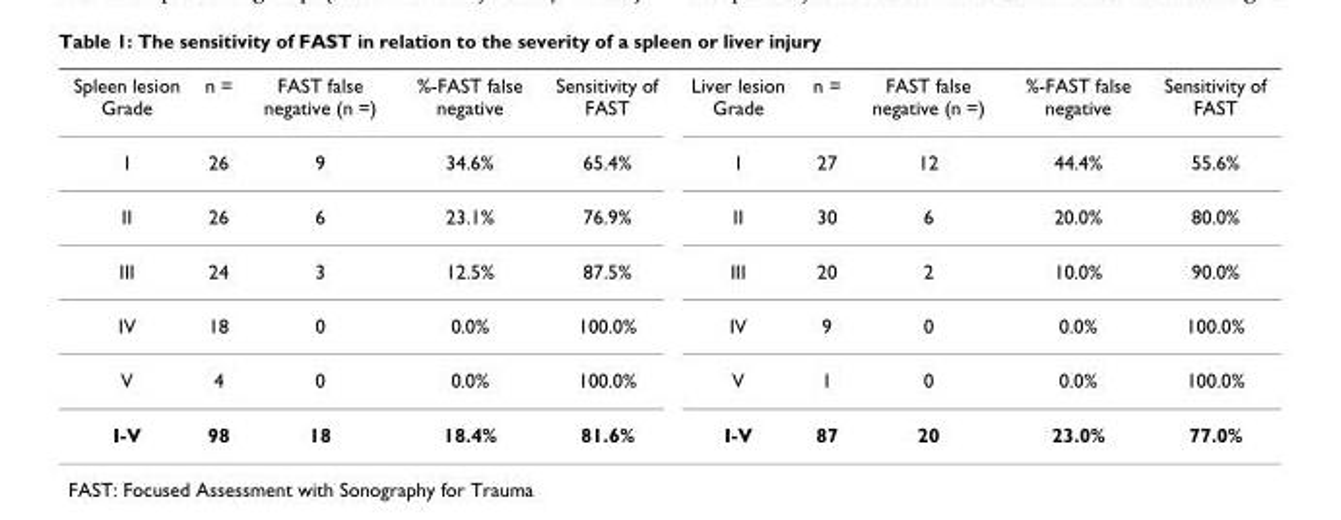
<table><tbody><tr><td>Spleen lesion Grade</td><td>n =</td><td>FAST false negative (n =)</td><td>%-FAST false negative</td><td>Sensitivity of FAST</td><td>Liver lesion Grade</td><td>n =</td><td>FAST false negative (n =)</td><td>%-FAST false negative</td><td>Sensitivity of FAST</td></tr><tr><td>I</td><td>26</td><td>9</td><td>34.6%</td><td>65.4%</td><td>I</td><td>27</td><td>12</td><td>44.4%</td><td>55.6%</td></tr><tr><td>II</td><td>26</td><td>6</td><td>23.1%</td><td>76.9%</td><td>II</td><td>30</td><td>6</td><td>20.0%</td><td>80.0%</td></tr><tr><td>III</td><td>24</td><td>3</td><td>12.5%</td><td>87.5%</td><td>III</td><td>20</td><td>2</td><td>10.0%</td><td>90.0%</td></tr><tr><td>IV</td><td>18</td><td>0</td><td>0.0%</td><td>100.0%</td><td>IV</td><td>9</td><td>0</td><td>0.0%</td><td>100.0%</td></tr><tr><td>V</td><td>4</td><td>0</td><td>0.0%</td><td>100.0%</td><td>V</td><td>1</td><td>0</td><td>0.0%</td><td>100.0%</td></tr><tr><td>I-V</td><td>98</td><td>18</td><td>18.4%</td><td>81.6%</td><td>I-V</td><td>87</td><td>20</td><td>23.0%</td><td>77.0%</td></tr></tbody></table>